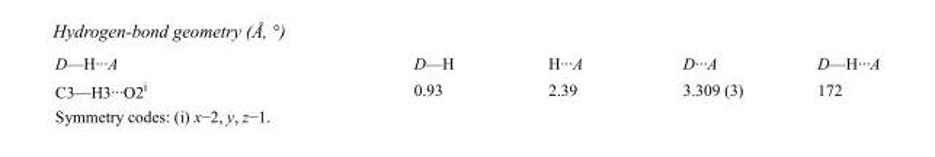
<table><tbody><tr><td>D—H···A</td><td>D—H</td><td>H···A</td><td>D···A</td><td>D—H···A</td></tr><tr><td>C3—H3···O2<sup>i</sup></td><td>0.93</td><td>2.39</td><td>3.309 (3)</td><td>172</td></tr></tbody></table>